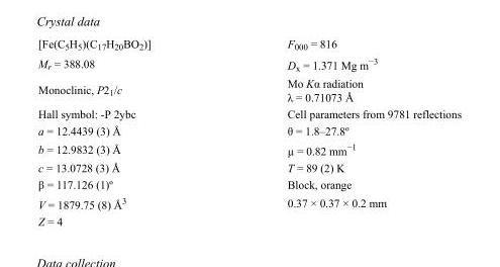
<table><tbody><tr><td>[Fe(C<sub>5</sub>H<sub>5</sub>)(C<sub>17</sub>H<sub>20</sub>BO<sub>2</sub>)]</td><td>F<sub>000</sub> = 816</td></tr><tr><td>M<sub>r</sub> = 388.08</td><td>D<sub>x</sub> = 1.371 Mg m<sup>−3</sup></td></tr><tr><td>Monoclinic, P2<sub>1</sub>/c</td><td>Mo Kα radiation λ = 0.71073 Å</td></tr><tr><td>Hall symbol: -P 2ybc</td><td>Cell parameters from 9781 reflections</td></tr><tr><td>a = 12.4439 (3) Å</td><td>θ = 1.8–27.8º</td></tr><tr><td>b = 12.9832 (3) Å</td><td>µ = 0.82 mm<sup>−1</sup></td></tr><tr><td>c = 13.0728 (3) Å</td><td>T = 89 (2) K</td></tr><tr><td>β = 117.126 (1)º</td><td>Block, orange</td></tr><tr><td>V = 1879.75 (8) Å<sup>3</sup></td><td>0.37 × 0.37 × 0.2 mm</td></tr><tr><td>Z = 4</td><td></td></tr></tbody></table>